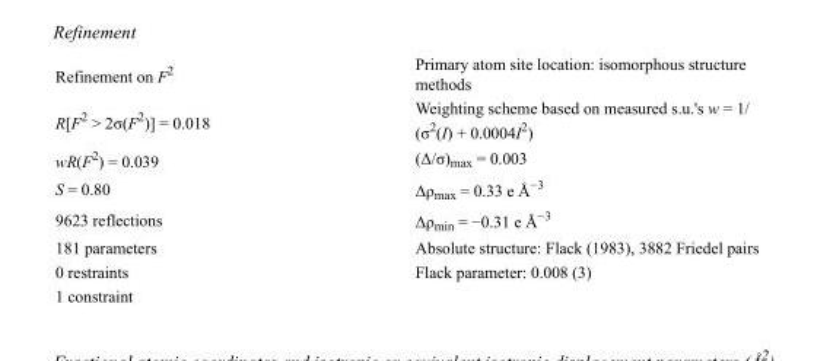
<table><tbody><tr><td>Refinement on F<sup>2</sup></td><td>Primary atom site location: isomorphous structure methods</td></tr><tr><td>R[F<sup>2</sup> &gt; 2σ(F<sup>2</sup>)] = 0.018</td><td>Weighting scheme based on measured s.u.&#x27;s w = 1/ (σ<sup>2</sup>(I) + 0.0004I<sup>2</sup>)</td></tr><tr><td>wR(F<sup>2</sup>) = 0.039</td><td>(Δ/σ)<sub>max</sub> = 0.003</td></tr><tr><td>S = 0.80</td><td>Δρ<sub>max</sub> = 0.33 e Å<sup>−3</sup></td></tr><tr><td>9623 reflections</td><td>Δρ<sub>min</sub> = −0.31 e Å<sup>−3</sup></td></tr><tr><td>181 parameters</td><td>Absolute structure: Flack (1983), 3882 Friedel pairs</td></tr><tr><td>0 restraints</td><td>Flack parameter: 0.008 (3)</td></tr><tr><td>1 constraint</td><td></td></tr></tbody></table>